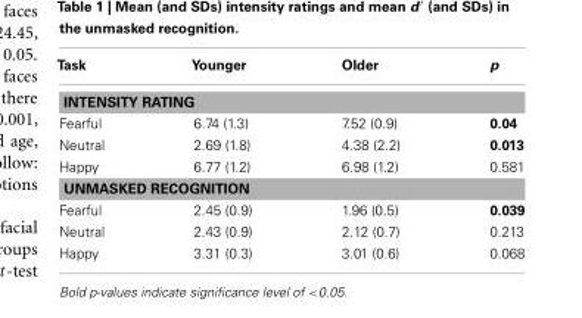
<table><thead><tr><td>Task</td><td>Younger</td><td>Older</td><td>p</td></tr></thead><tbody><tr><td colspan="4">INTENSITY RATING</td></tr><tr><td>Fearful</td><td>6.74 (1.3)</td><td>7.52 (0.9)</td><td>0.04</td></tr><tr><td>Neutral</td><td>2.69 (1.8)</td><td>4.38 (2.2)</td><td>0.013</td></tr><tr><td>Happy</td><td>6.77 (1.2)</td><td>6.98 (1.2)</td><td>0.581</td></tr><tr><td colspan="4">UNMASKED RECOGNITION</td></tr><tr><td>Fearful</td><td>2.45 (0.9)</td><td>1.96 (0.5)</td><td>0.039</td></tr><tr><td>Neutral</td><td>2.43 (0.9)</td><td>2.12 (0.7)</td><td>0.213</td></tr><tr><td>Happy</td><td>3.31 (0.3)</td><td>3.01 (0.6)</td><td>0.068</td></tr></tbody></table>